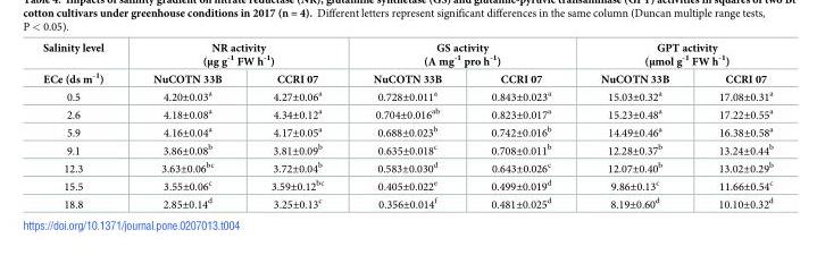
<table><thead><tr><td rowspan="2">Salinity level ECe (ds m<sup>-1</sup>)</td><td colspan="2">NR activity (μg g<sup>-1</sup> FW h<sup>-1</sup>)</td><td colspan="2">GS activity (A mg<sup>-1</sup> pro h<sup>-1</sup>)</td><td colspan="2">GPT activity (μmol g<sup>-1</sup> FW h<sup>-1</sup>)</td></tr><tr><td>NuCOTN 33B</td><td>CCRI 07</td><td>NuCOTN 33B</td><td>CCRI 07</td><td>NuCOTN 33B</td><td>CCRI 07</td></tr></thead><tbody><tr><td>0.5</td><td>4.20±0.03<sup>a</sup></td><td>4.27±0.06<sup>a</sup></td><td>0.728±0.011<sup>a</sup></td><td>0.843±0.023<sup>a</sup></td><td>15.03±0.32<sup>a</sup></td><td>17.08±0.31<sup>a</sup></td></tr><tr><td>2.6</td><td>4.18±0.08<sup>a</sup></td><td>4.34±0.12<sup>a</sup></td><td>0.704±0.016<sup>ab</sup></td><td>0.823±0.017<sup>a</sup></td><td>15.23±0.48<sup>a</sup></td><td>17.22±0.55<sup>a</sup></td></tr><tr><td>5.9</td><td>4.16±0.04<sup>a</sup></td><td>4.17±0.05<sup>a</sup></td><td>0.688±0.023<sup>b</sup></td><td>0.742±0.016<sup>b</sup></td><td>14.49±0.46<sup>a</sup></td><td>16.38±0.58<sup>a</sup></td></tr><tr><td>9.1</td><td>3.86±0.08<sup>b</sup></td><td>3.81±0.09<sup>b</sup></td><td>0.635±0.018<sup>c</sup></td><td>0.708±0.011<sup>b</sup></td><td>12.28±0.37<sup>b</sup></td><td>13.24±0.44<sup>b</sup></td></tr><tr><td>12.3</td><td>3.63±0.06<sup>bc</sup></td><td>3.72±0.04<sup>b</sup></td><td>0.583±0.030<sup>d</sup></td><td>0.643±0.026<sup>c</sup></td><td>12.07±0.40<sup>b</sup></td><td>13.02±0.29<sup>b</sup></td></tr><tr><td>15.5</td><td>3.55±0.06<sup>c</sup></td><td>3.59±0.12<sup>bc</sup></td><td>0.405±0.022<sup>e</sup></td><td>0.499±0.019<sup>d</sup></td><td>9.86±0.13<sup>c</sup></td><td>11.66±0.54<sup>c</sup></td></tr><tr><td>18.8</td><td>2.85±0.14<sup>d</sup></td><td>3.25±0.13<sup>c</sup></td><td>0.356±0.014<sup>f</sup></td><td>0.481±0.025<sup>d</sup></td><td>8.19±0.60<sup>d</sup></td><td>10.10±0.32<sup>d</sup></td></tr></tbody></table>